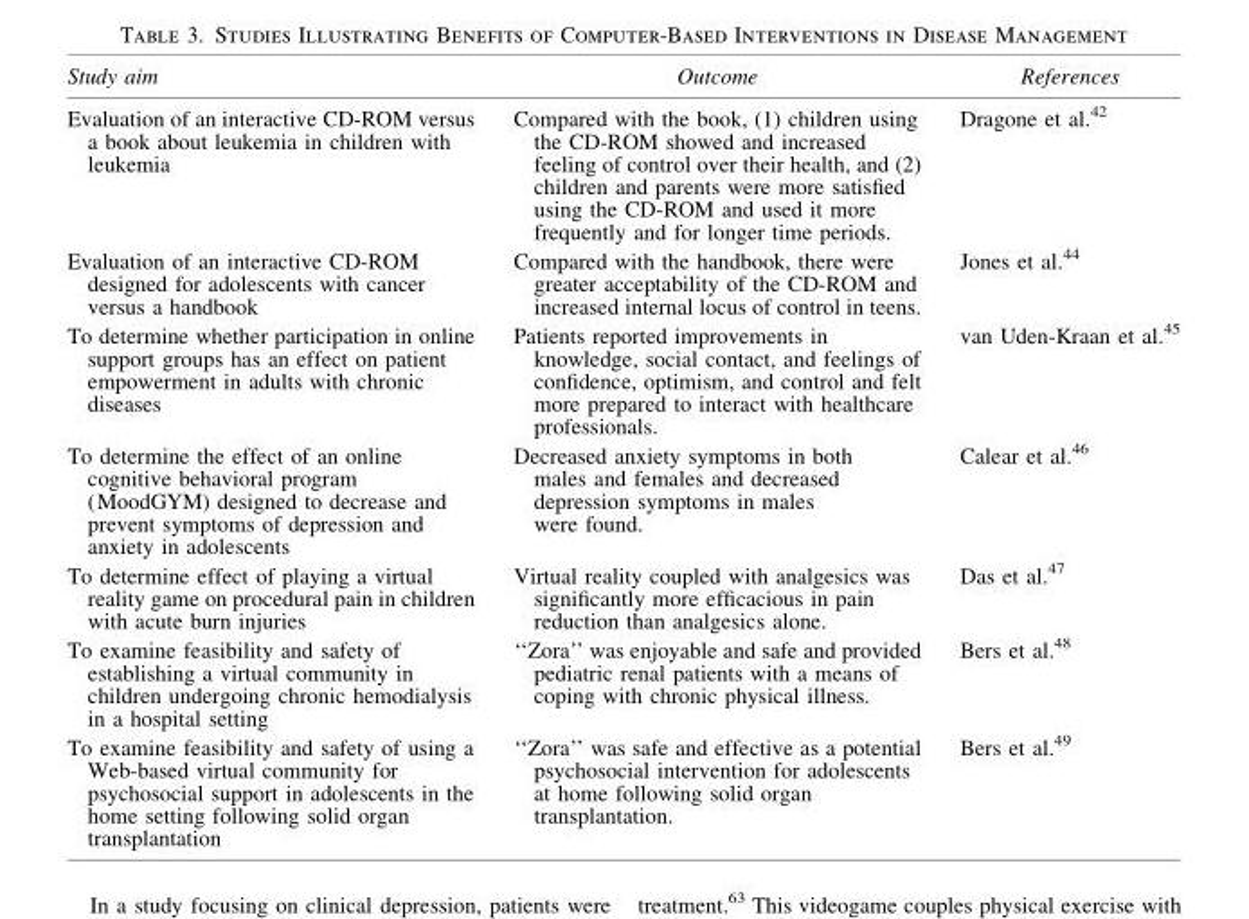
<table><thead><tr><td>Study aim</td><td>Outcome</td><td>References</td></tr></thead><tbody><tr><td>Evaluation of an interactive CD-ROM versus a book about leukemia in children with leukemia</td><td>Compared with the book, (1) children using the CD-ROM showed and increased feeling of control over their health, and (2) children and parents were more satisfied using the CD-ROM and used it more frequently and for longer time periods.</td><td>Dragone et al.<sup>42</sup></td></tr><tr><td>Evaluation of an interactive CD-ROM designed for adolescents with cancer versus a handbook</td><td>Compared with the handbook, there were greater acceptability of the CD-ROM and increased internal locus of control in teens.</td><td>Jones et al.<sup>44</sup></td></tr><tr><td>To determine whether participation in online support groups has an effect on patient empowerment in adults with chronic diseases</td><td>Patients reported improvements in knowledge, social contact, and feelings of confidence, optimism, and control and felt more prepared to interact with healthcare professionals.</td><td>van Uden-Kraan et al.<sup>45</sup></td></tr><tr><td>To determine the effect of an online cognitive behavioral program (MoodGYM) designed to decrease and prevent symptoms of depression and anxiety in adolescents</td><td>Decreased anxiety symptoms in both males and females and decreased depression symptoms in males were found.</td><td>Calear et al.<sup>46</sup></td></tr><tr><td>To determine effect of playing a virtual reality game on procedural pain in children with acute burn injuries</td><td>Virtual reality coupled with analgesics was significantly more efficacious in pain reduction than analgesics alone.</td><td>Das et al.<sup>47</sup></td></tr><tr><td>To examine feasibility and safety of establishing a virtual community in children undergoing chronic hemodialysis in a hospital setting</td><td>‘‘Zora’’ was enjoyable and safe and provided pediatric renal patients with a means of coping with chronic physical illness.</td><td>Bers et al.<sup>48</sup></td></tr><tr><td>To examine feasibility and safety of using a Web-based virtual community for psychosocial support in adolescents in the home setting following solid organ transplantation</td><td>‘‘Zora’’ was safe and effective as a potential psychosocial intervention for adolescents at home following solid organ transplantation.</td><td>Bers et al.<sup>49</sup></td></tr></tbody></table>